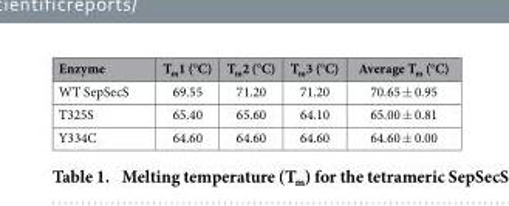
<table><thead><tr><td>Enzyme</td><td>T<sub>m</sub>1 (°C)</td><td>T<sub>m</sub>2 (°C)</td><td>T<sub>m</sub>3 (°C)</td><td>Average T<sub>m</sub> (°C)</td></tr></thead><tbody><tr><td>WT SepSecS</td><td>69.55</td><td>71.20</td><td>71.20</td><td>70.65 ± 0.95</td></tr><tr><td>T325S</td><td>65.40</td><td>65.60</td><td>64.10</td><td>65.00 ± 0.81</td></tr><tr><td>Y334C</td><td>64.60</td><td>64.60</td><td>64.60</td><td>64.60 ± 0.00</td></tr></tbody></table>